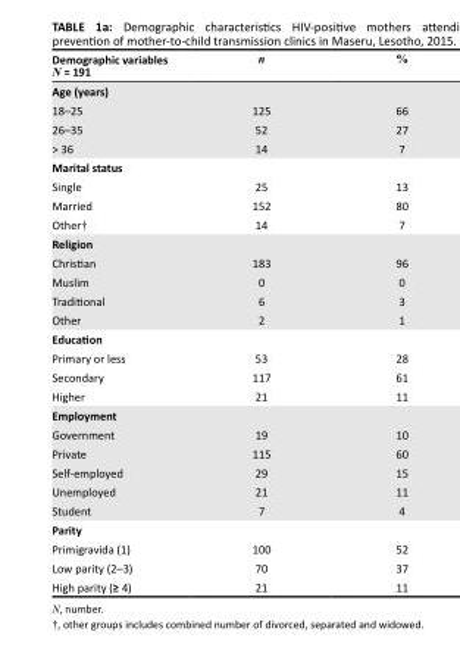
<table><thead><tr><td>Demographic variables N = 191</td><td>n</td><td>%</td></tr></thead><tbody><tr><td colspan="3">Age (years)</td></tr><tr><td>18–25</td><td>125</td><td>66</td></tr><tr><td>26–35</td><td>52</td><td>27</td></tr><tr><td>&gt; 36</td><td>14</td><td>7</td></tr><tr><td colspan="3">Marital status</td></tr><tr><td>Single</td><td>25</td><td>13</td></tr><tr><td>Married</td><td>152</td><td>80</td></tr><tr><td>Other†</td><td>14</td><td>7</td></tr><tr><td colspan="3">Religion</td></tr><tr><td>Christian</td><td>183</td><td>96</td></tr><tr><td>Muslim</td><td>0</td><td>0</td></tr><tr><td>Traditional</td><td>6</td><td>3</td></tr><tr><td>Other</td><td>2</td><td>1</td></tr><tr><td colspan="3">Education</td></tr><tr><td>Primary or less</td><td>53</td><td>28</td></tr><tr><td>Secondary</td><td>117</td><td>61</td></tr><tr><td>Higher</td><td>21</td><td>11</td></tr><tr><td colspan="3">Employment</td></tr><tr><td>Government</td><td>19</td><td>10</td></tr><tr><td>Private</td><td>115</td><td>60</td></tr><tr><td>Self-employed</td><td>29</td><td>15</td></tr><tr><td>Unemployed</td><td>21</td><td>11</td></tr><tr><td>Student</td><td>7</td><td>4</td></tr><tr><td colspan="3">Parity</td></tr><tr><td>Primigravida (1)</td><td>100</td><td>52</td></tr><tr><td>Low parity (2–3)</td><td>70</td><td>37</td></tr><tr><td>High parity (≥ 4)</td><td>21</td><td>11</td></tr></tbody></table>